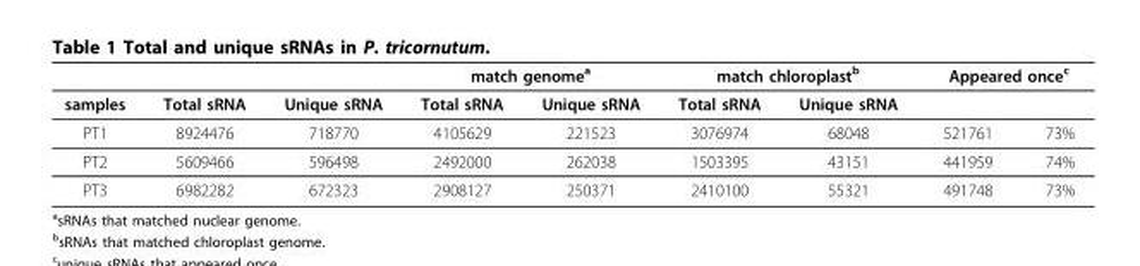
<table><thead><tr><td rowspan="2">samples</td><td rowspan="2">Total sRNA</td><td rowspan="2">Unique sRNA</td><td colspan="2">match genome<sup>a</sup></td><td colspan="2">match chloroplast<sup>b</sup></td><td colspan="2">Appeared once<sup>c</sup></td></tr><tr><td>Total sRNA</td><td>Unique sRNA</td><td>Total sRNA</td><td>Unique sRNA</td><td></td><td></td></tr></thead><tbody><tr><td>PT1</td><td>8924476</td><td>718770</td><td>4105629</td><td>221523</td><td>3076974</td><td>68048</td><td>521761</td><td>73%</td></tr><tr><td>PT2</td><td>5609466</td><td>596498</td><td>2492000</td><td>262038</td><td>1503395</td><td>43151</td><td>441959</td><td>74%</td></tr><tr><td>PT3</td><td>6982282</td><td>672323</td><td>2908127</td><td>250371</td><td>2410100</td><td>55321</td><td>491748</td><td>73%</td></tr></tbody></table>